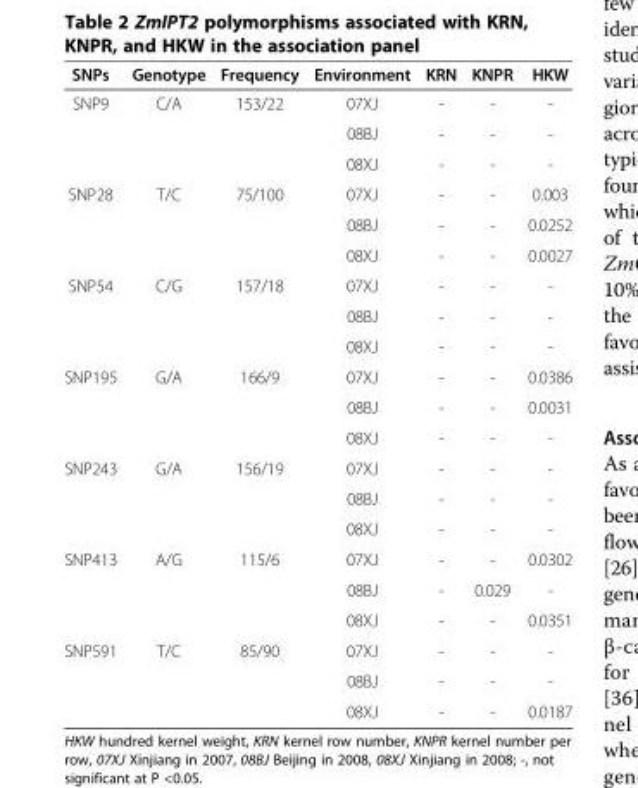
<table><thead><tr><td>SNPs</td><td>Genotype</td><td>Frequency</td><td>Environment</td><td>KRN</td><td>KNPR</td><td>HKW</td></tr></thead><tbody><tr><td rowspan="3">SNP9</td><td rowspan="3">C/A</td><td rowspan="3">153/22</td><td>07XJ</td><td>-</td><td>-</td><td>-</td></tr><tr><td>08BJ</td><td>-</td><td>-</td><td>-</td></tr><tr><td>08XJ</td><td>-</td><td>-</td><td>-</td></tr><tr><td rowspan="3">SNP28</td><td rowspan="3">T/C</td><td rowspan="3">75/100</td><td>07XJ</td><td>-</td><td>-</td><td>0.003</td></tr><tr><td>08BJ</td><td>-</td><td>-</td><td>0.0252</td></tr><tr><td>08XJ</td><td>-</td><td>-</td><td>0.0027</td></tr><tr><td rowspan="3">SNP54</td><td rowspan="3">C/G</td><td rowspan="3">157/18</td><td>07XJ</td><td>-</td><td>-</td><td>-</td></tr><tr><td>08BJ</td><td>-</td><td>-</td><td>-</td></tr><tr><td>08XJ</td><td>-</td><td>-</td><td>-</td></tr><tr><td rowspan="3">SNP195</td><td rowspan="3">G/A</td><td rowspan="3">166/9</td><td>07XJ</td><td>-</td><td>-</td><td>0.0386</td></tr><tr><td>08BJ</td><td>-</td><td>-</td><td>0.0031</td></tr><tr><td>08XJ</td><td>-</td><td>-</td><td>-</td></tr><tr><td rowspan="3">SNP243</td><td rowspan="3">G/A</td><td rowspan="3">156/19</td><td>07XJ</td><td>-</td><td>-</td><td>-</td></tr><tr><td>08BJ</td><td>-</td><td>-</td><td>-</td></tr><tr><td>08XJ</td><td>-</td><td>-</td><td>-</td></tr><tr><td rowspan="3">SNP413</td><td rowspan="3">A/G</td><td rowspan="3">115/6</td><td>07XJ</td><td>-</td><td>-</td><td>0.0302</td></tr><tr><td>08BJ</td><td>-</td><td>0.029</td><td>-</td></tr><tr><td>08XJ</td><td>-</td><td>-</td><td>0.0351</td></tr><tr><td rowspan="3">SNP591</td><td rowspan="3">T/C</td><td rowspan="3">85/90</td><td>07XJ</td><td>-</td><td>-</td><td>-</td></tr><tr><td>08BJ</td><td>-</td><td>-</td><td>-</td></tr><tr><td>08XJ</td><td>-</td><td>-</td><td>0.0187</td></tr></tbody></table>